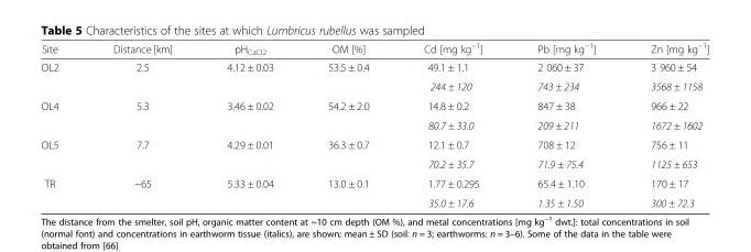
<table><thead><tr><td>Site</td><td>Distance [km]</td><td>pH<sub>CaCl2</sub></td><td>OM [%]</td><td>Cd [mg kg<sup>−1</sup>]</td><td>Pb [mg kg<sup>−1</sup>]</td><td>Zn [mg kg<sup>−1</sup>]</td></tr></thead><tbody><tr><td rowspan="2">OL2</td><td>2.5</td><td>4.12 ± 0.03</td><td>53.5 ± 0.4</td><td>49.1 ± 1.1</td><td>2 060 ± 37</td><td>3 960 ± 54</td></tr><tr><td></td><td></td><td></td><td>244 ± 120</td><td>743 ± 234</td><td>3568 ± 1158</td></tr><tr><td rowspan="2">OL4</td><td>5.3</td><td>3.46 ± 0.02</td><td>54.2 ± 2.0</td><td>14.8 ± 0.2</td><td>847 ± 38</td><td>966 ± 22</td></tr><tr><td></td><td></td><td></td><td>80.7 ± 33.0</td><td>209 ± 211</td><td>1672 ± 1602</td></tr><tr><td rowspan="2">OL5</td><td>7.7</td><td>4.29 ± 0.01</td><td>36.3 ± 0.7</td><td>12.1 ± 0.7</td><td>708 ± 12</td><td>756 ± 11</td></tr><tr><td></td><td></td><td></td><td>70.2 ± 35.7</td><td>71.9 ± 75.4</td><td>1125 ± 653</td></tr><tr><td rowspan="2">TR</td><td>~65</td><td>5.33 ± 0.04</td><td>13.0 ± 0.1</td><td>1.77 ± 0.295</td><td>65.4 ± 1.10</td><td>170 ± 17</td></tr><tr><td></td><td></td><td></td><td>35.0 ± 17.6</td><td>1.35 ± 1.50</td><td>300 ± 72.3</td></tr></tbody></table>